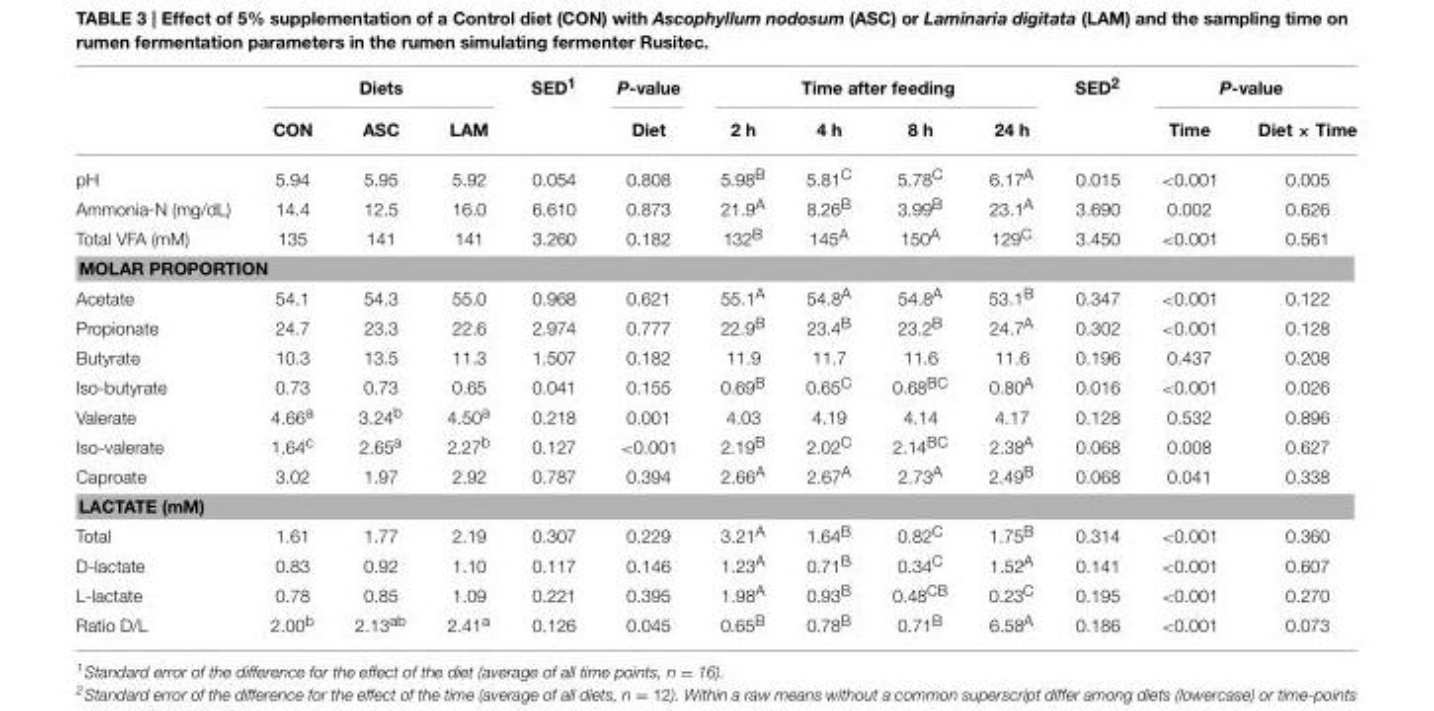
<table><thead><tr><td rowspan="2"></td><td colspan="3">Diets</td><td rowspan="2">SED<sup>1</sup></td><td rowspan="2">P-value Diet</td><td colspan="4">Time after feeding</td><td rowspan="2">SED<sup>2</sup></td><td colspan="2">P-value</td></tr><tr><td>CON</td><td>ASC</td><td>LAM</td><td>2 h</td><td>4 h</td><td>8 h</td><td>24 h</td><td>Time</td><td>Diet × Time</td></tr></thead><tbody><tr><td>pH</td><td>5.94</td><td>5.95</td><td>5.92</td><td>0.054</td><td>0.808</td><td>5.98<sup>B</sup></td><td>5.81<sup>C</sup></td><td>5.78<sup>C</sup></td><td>6.17<sup>A</sup></td><td>0.015</td><td>&lt;0.001</td><td>0.005</td></tr><tr><td>Ammonia-N (mg/dL)</td><td>14.4</td><td>12.5</td><td>16.0</td><td>6.610</td><td>0.873</td><td>21.9<sup>A</sup></td><td>8.26<sup>B</sup></td><td>3.99<sup>B</sup></td><td>23.1<sup>A</sup></td><td>3.690</td><td>0.002</td><td>0.626</td></tr><tr><td>Total VFA (mM)</td><td>135</td><td>141</td><td>141</td><td>3.260</td><td>0.182</td><td>132<sup>B</sup></td><td>145<sup>A</sup></td><td>150<sup>A</sup></td><td>129<sup>C</sup></td><td>3.450</td><td>&lt;0.001</td><td>0.561</td></tr><tr><td colspan="13">MOLAR PROPORTION</td></tr><tr><td>Acetate</td><td>54.1</td><td>54.3</td><td>55.0</td><td>0.968</td><td>0.621</td><td>55.1<sup>A</sup></td><td>54.8<sup>A</sup></td><td>54.8<sup>A</sup></td><td>53.1<sup>B</sup></td><td>0.347</td><td>&lt;0.001</td><td>0.122</td></tr><tr><td>Propionate</td><td>24.7</td><td>23.3</td><td>22.6</td><td>2.974</td><td>0.777</td><td>22.9<sup>B</sup></td><td>23.4<sup>B</sup></td><td>23.2<sup>B</sup></td><td>24.7<sup>A</sup></td><td>0.302</td><td>&lt;0.001</td><td>0.128</td></tr><tr><td>Butyrate</td><td>10.3</td><td>13.5</td><td>11.3</td><td>1.507</td><td>0.182</td><td>11.9</td><td>11.7</td><td>11.6</td><td>11.6</td><td>0.196</td><td>0.437</td><td>0.208</td></tr><tr><td>Iso-butyrate</td><td>0.73</td><td>0.73</td><td>0.65</td><td>0.041</td><td>0.155</td><td>0.69<sup>B</sup></td><td>0.65<sup>C</sup></td><td>0.68<sup>BC</sup></td><td>0.80<sup>A</sup></td><td>0.016</td><td>&lt;0.001</td><td>0.026</td></tr><tr><td>Valerate</td><td>4.66<sup>a</sup></td><td>3.24<sup>b</sup></td><td>4.50<sup>a</sup></td><td>0.218</td><td>0.001</td><td>4.03</td><td>4.19</td><td>4.14</td><td>4.17</td><td>0.128</td><td>0.532</td><td>0.896</td></tr><tr><td>Iso-valerate</td><td>1.64<sup>c</sup></td><td>2.65<sup>a</sup></td><td>2.27<sup>b</sup></td><td>0.127</td><td>&lt;0.001</td><td>2.19<sup>B</sup></td><td>2.02<sup>C</sup></td><td>2.14<sup>BC</sup></td><td>2.38<sup>A</sup></td><td>0.068</td><td>0.008</td><td>0.627</td></tr><tr><td>Caproate</td><td>3.02</td><td>1.97</td><td>2.92</td><td>0.787</td><td>0.394</td><td>2.66<sup>A</sup></td><td>2.67<sup>A</sup></td><td>2.73<sup>A</sup></td><td>2.49<sup>B</sup></td><td>0.068</td><td>0.041</td><td>0.338</td></tr><tr><td colspan="13">LACTATE (mM)</td></tr><tr><td>Total</td><td>1.61</td><td>1.77</td><td>2.19</td><td>0.307</td><td>0.229</td><td>3.21<sup>A</sup></td><td>1.64<sup>B</sup></td><td>0.82<sup>C</sup></td><td>1.75<sup>B</sup></td><td>0.314</td><td>&lt;0.001</td><td>0.360</td></tr><tr><td>D-lactate</td><td>0.83</td><td>0.92</td><td>1.10</td><td>0.117</td><td>0.146</td><td>1.23<sup>A</sup></td><td>0.71<sup>B</sup></td><td>0.34<sup>C</sup></td><td>1.52<sup>A</sup></td><td>0.141</td><td>&lt;0.001</td><td>0.607</td></tr><tr><td>L-lactate</td><td>0.78</td><td>0.85</td><td>1.09</td><td>0.221</td><td>0.395</td><td>1.98<sup>A</sup></td><td>0.93<sup>B</sup></td><td>0.48<sup>CB</sup></td><td>0.23<sup>C</sup></td><td>0.195</td><td>&lt;0.001</td><td>0.270</td></tr><tr><td>Ratio D/L</td><td>2.00<sup>b</sup></td><td>2.13<sup>ab</sup></td><td>2.41<sup>a</sup></td><td>0.126</td><td>0.045</td><td>0.65<sup>B</sup></td><td>0.78<sup>B</sup></td><td>0.71<sup>B</sup></td><td>6.58<sup>A</sup></td><td>0.186</td><td>&lt;0.001</td><td>0.073</td></tr></tbody></table>